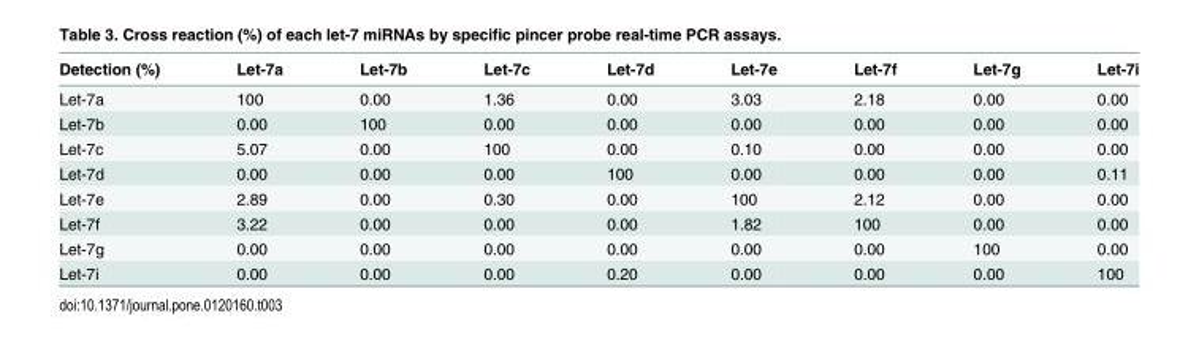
<table><thead><tr><td>Detection (%)</td><td>Let-7a</td><td>Let-7b</td><td>Let-7c</td><td>Let-7d</td><td>Let-7e</td><td>Let-7f</td><td>Let-7g</td><td>Let-7i</td></tr></thead><tbody><tr><td>Let-7a</td><td>100</td><td>0.00</td><td>1.36</td><td>0.00</td><td>3.03</td><td>2.18</td><td>0.00</td><td>0.00</td></tr><tr><td>Let-7b</td><td>0.00</td><td>100</td><td>0.00</td><td>0.00</td><td>0.00</td><td>0.00</td><td>0.00</td><td>0.00</td></tr><tr><td>Let-7c</td><td>5.07</td><td>0.00</td><td>100</td><td>0.00</td><td>0.10</td><td>0.00</td><td>0.00</td><td>0.00</td></tr><tr><td>Let-7d</td><td>0.00</td><td>0.00</td><td>0.00</td><td>100</td><td>0.00</td><td>0.00</td><td>0.00</td><td>0.11</td></tr><tr><td>Let-7e</td><td>2.89</td><td>0.00</td><td>0.30</td><td>0.00</td><td>100</td><td>2.12</td><td>0.00</td><td>0.00</td></tr><tr><td>Let-7f</td><td>3.22</td><td>0.00</td><td>0.00</td><td>0.00</td><td>1.82</td><td>100</td><td>0.00</td><td>0.00</td></tr><tr><td>Let-7g</td><td>0.00</td><td>0.00</td><td>0.00</td><td>0.00</td><td>0.00</td><td>0.00</td><td>100</td><td>0.00</td></tr><tr><td>Let-7i</td><td>0.00</td><td>0.00</td><td>0.00</td><td>0.20</td><td>0.00</td><td>0.00</td><td>0.00</td><td>100</td></tr></tbody></table>